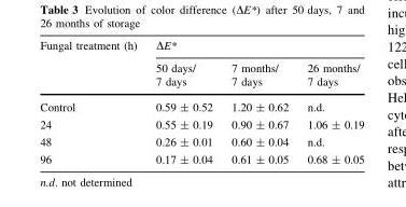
<table><thead><tr><td rowspan="2">Fungal treatment (h)</td><td colspan="3">ΔE*</td></tr><tr><td>50 days/ 7 days</td><td>7 months/ 7 days</td><td>26 months/ 7 days</td></tr></thead><tbody><tr><td>Control</td><td>0.59 ± 0.52</td><td>1.20 ± 0.62</td><td>n.d.</td></tr><tr><td>24</td><td>0.55 ± 0.19</td><td>0.90 ± 0.67</td><td>1.06 ± 0.19</td></tr><tr><td>48</td><td>0.26 ± 0.01</td><td>0.60 ± 0.04</td><td>n.d.</td></tr><tr><td>96</td><td>0.17 ± 0.04</td><td>0.61 ± 0.05</td><td>0.68 ± 0.05</td></tr></tbody></table>